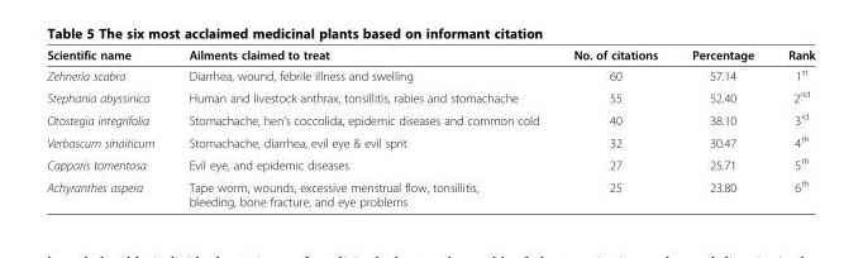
<table><thead><tr><td>Scientific name</td><td>Ailments claimed to treat</td><td>No. of citations</td><td>Percentage</td><td>Rank</td></tr></thead><tbody><tr><td>Zehneria scabra</td><td>Diarrhea, wound, febrile illness and swelling</td><td>60</td><td>57.14</td><td>1<sup>st</sup></td></tr><tr><td>Stephania abyssinica</td><td>Human and livestock anthrax, tonsillitis, rabies and stomachache</td><td>55</td><td>52.40</td><td>2<sup>nd</sup></td></tr><tr><td>Otostegia integrifolia</td><td>Stomachache, hen’s coccolida, epidemic diseases and common cold</td><td>40</td><td>38.10</td><td>3<sup>rd</sup></td></tr><tr><td>Verbascum sinaiticum</td><td>Stomachache, diarrhea, evil eye &amp; evil sprit</td><td>32</td><td>30.47</td><td>4<sup>th</sup></td></tr><tr><td>Capparis tomentosa</td><td>Evil eye, and epidemic diseases</td><td>27</td><td>25.71</td><td>5<sup>th</sup></td></tr><tr><td>Achyranthes aspera</td><td>Tape worm, wounds, excessive menstrual flow, tonsillitis, bleeding, bone fracture, and eye problems</td><td>25</td><td>23.80</td><td>6<sup>th</sup></td></tr></tbody></table>